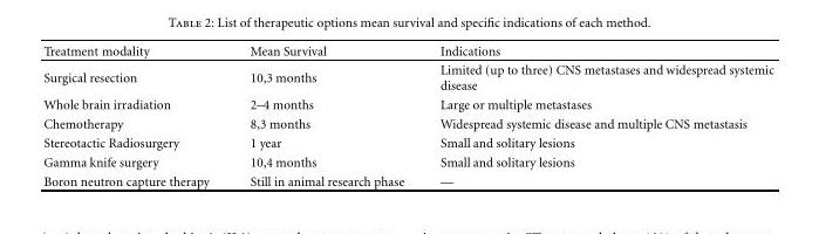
<table><thead><tr><td>Treatment modality</td><td>Mean Survival</td><td>Indications</td></tr></thead><tbody><tr><td>Surgical resection</td><td>10,3 months</td><td>Limited (up to three) CNS metastases and widespread systemic disease</td></tr><tr><td>Whole brain irradiation</td><td>2–4 months</td><td>Large or multiple metastases</td></tr><tr><td>Chemotherapy</td><td>8,3 months</td><td>Widespread systemic disease and multiple CNS metastasis</td></tr><tr><td>Stereotactic Radiosurgery</td><td>1 year</td><td>Small and solitary lesions</td></tr><tr><td>Gamma knife surgery</td><td>10,4 months</td><td>Small and solitary lesions</td></tr><tr><td>Boron neutron capture therapy</td><td>Still in animal research phase</td><td>—</td></tr></tbody></table>